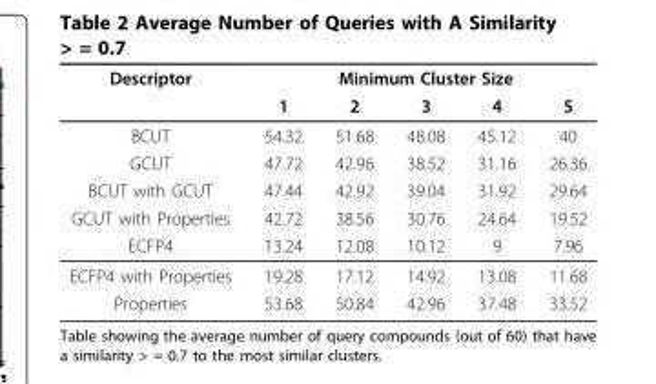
<table><thead><tr><td rowspan="2">Descriptor</td><td colspan="5">Minimum Cluster Size</td></tr><tr><td>1</td><td>2</td><td>3</td><td>4</td><td>5</td></tr></thead><tbody><tr><td>BCUT</td><td>54.32</td><td>51.68</td><td>48.08</td><td>45.12</td><td>40</td></tr><tr><td>GCUT</td><td>47.72</td><td>42.96</td><td>38.52</td><td>31.16</td><td>26.36</td></tr><tr><td>BCUT with GCUT</td><td>47.44</td><td>42.92</td><td>39.04</td><td>31.92</td><td>29.64</td></tr><tr><td>GCUT with Properties</td><td>42.72</td><td>38.56</td><td>30.76</td><td>24.64</td><td>19.52</td></tr><tr><td>ECFP4</td><td>13.24</td><td>12.08</td><td>10.12</td><td>9</td><td>7.96</td></tr><tr><td>ECFP4 with Properties</td><td>19.28</td><td>17.12</td><td>14.92</td><td>13.08</td><td>11.68</td></tr><tr><td>Properties</td><td>53.68</td><td>50.84</td><td>42.96</td><td>37.48</td><td>33.52</td></tr></tbody></table>